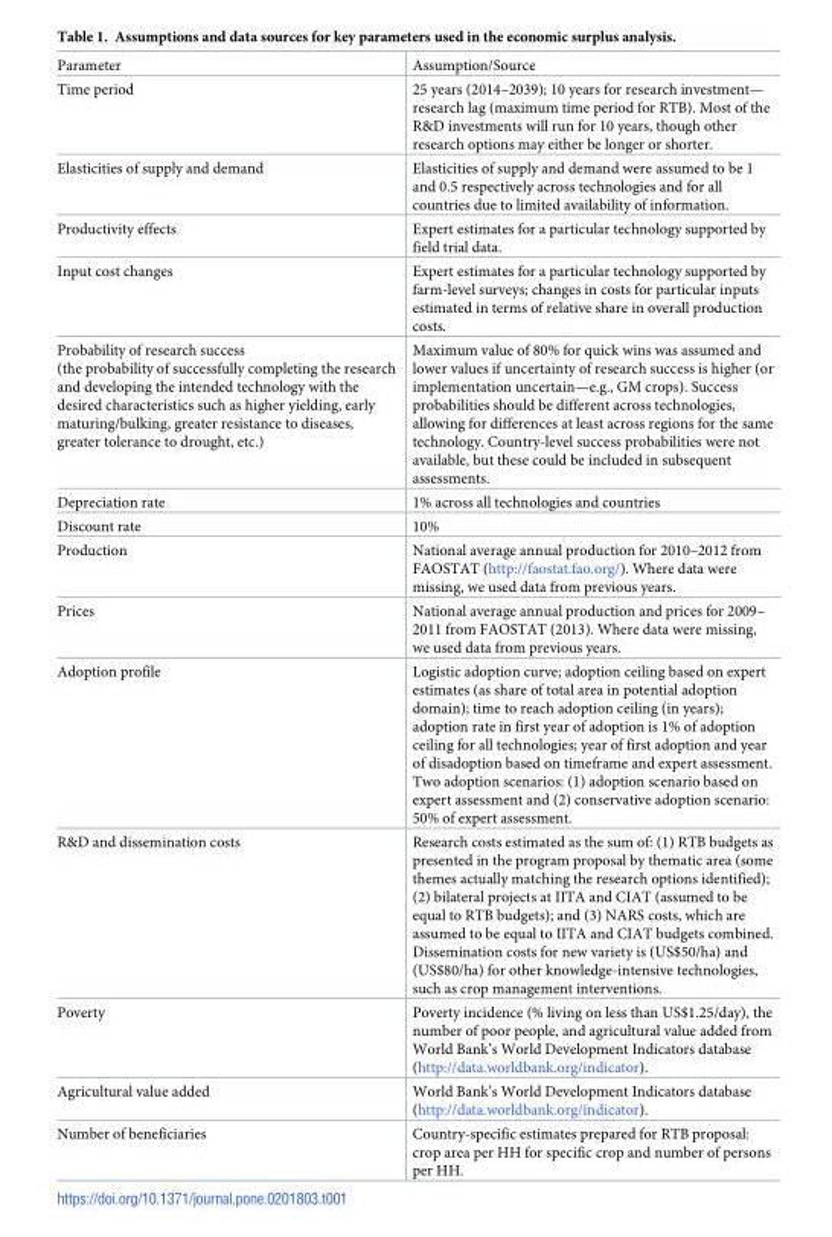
<table><tbody><tr><td>Parameter</td><td>Assumption/Source</td></tr><tr><td>Time period</td><td>25 years (2014–2039); 10 years for research investment— research lag (maximum time period for RTB). Most of the R&amp;D investments will run for 10 years, though other research options may either be longer or shorter.</td></tr><tr><td>Elasticities of supply and demand</td><td>Elasticities of supply and demand were assumed to be 1 and 0.5 respectively across technologies and for all countries due to limited availability of information.</td></tr><tr><td>Productivity effects</td><td>Expert estimates for a particular technology supported by field trial data.</td></tr><tr><td>Input cost changes</td><td>Expert estimates for a particular technology supported by farm-level surveys; changes in costs for particular inputs estimated in terms of relative share in overall production costs.</td></tr><tr><td>Probability of research success (the probability of successfully completing the research and developing the intended technology with the desired characteristics such as higher yielding, early maturing/bulking, greater resistance to diseases, greater tolerance to drought, etc.)</td><td>Maximum value of 80% for quick wins was assumed and lower values if uncertainty of research success is higher (or implementation uncertain—e.g., GM crops). Success probabilities should be different across technologies, allowing for differences at least across regions for the same technology. Country-level success probabilities were not available, but these could be included in subsequent assessments.</td></tr><tr><td>Depreciation rate</td><td>1% across all technologies and countries</td></tr><tr><td>Discount rate</td><td>10%</td></tr><tr><td>Production</td><td>National average annual production for 2010–2012 from FAOSTAT (http://faostat.fao.org/). Where data were missing, we used data from previous years.</td></tr><tr><td>Prices</td><td>National average annual production and prices for 2009– 2011 from FAOSTAT (2013). Where data were missing, we used data from previous years.</td></tr><tr><td>Adoption profile</td><td>Logistic adoption curve; adoption ceiling based on expert estimates (as share of total area in potential adoption domain); time to reach adoption ceiling (in years); adoption rate in first year of adoption is 1% of adoption ceiling for all technologies; year of first adoption and year of disadoption based on timeframe and expert assessment. Two adoption scenarios: (1) adoption scenario based on expert assessment and (2) conservative adoption scenario: 50% of expert assessment.</td></tr><tr><td>R&amp;D and dissemination costs</td><td>Research costs estimated as the sum of: (1) RTB budgets as presented in the program proposal by thematic area (some themes actually matching the research options identified); (2) bilateral projects at IITA and CIAT (assumed to be equal to RTB budgets); and (3) NARS costs, which are assumed to be equal to IITA and CIAT budgets combined. Dissemination costs for new variety is (US$50/ha) and (US$80/ha) for other knowledge-intensive technologies, such as crop management interventions.</td></tr><tr><td>Poverty</td><td>Poverty incidence (% living on less than US$1.25/day), the number of poor people, and agricultural value added from World Bank’s World Development Indicators database (http://data.worldbank.org/indicator).</td></tr><tr><td>Agricultural value added</td><td>World Bank’s World Development Indicators database (http://data.worldbank.org/indicator).</td></tr><tr><td>Number of beneficiaries</td><td>Country-specific estimates prepared for RTB proposal: crop area per HH for specific crop and number of persons per HH.</td></tr></tbody></table>